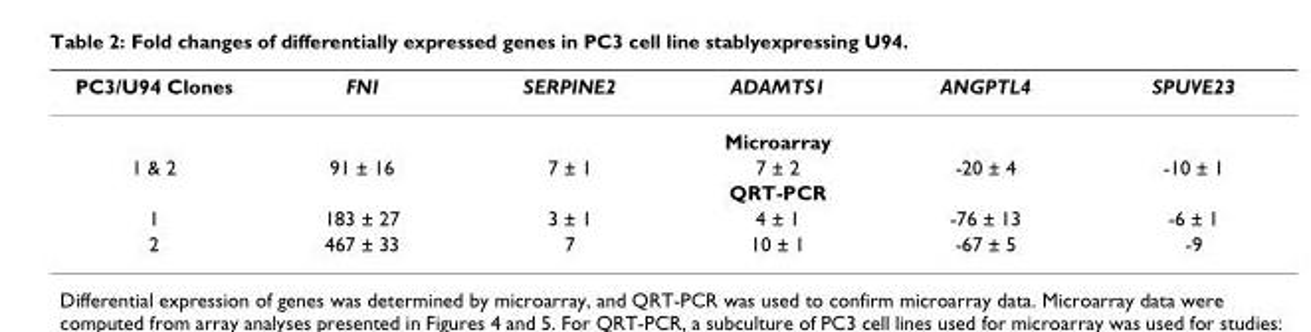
<table><thead><tr><td>PC3/U94 Clones</td><td>FNI</td><td>SERPINE2</td><td>ADAMTS1</td><td>ANGPTL4</td><td>SPUVE23</td></tr></thead><tbody><tr><td></td><td></td><td></td><td>Microarray</td><td></td><td></td></tr><tr><td rowspan="2">1 &amp; 2</td><td>91 ± 16</td><td>7 ± 1</td><td>7 ± 2</td><td>-20 ± 4</td><td>-10 ± 1</td></tr><tr><td></td><td></td><td>QRT-PCR</td><td></td><td></td></tr><tr><td>1</td><td>183 ± 27</td><td>3 ± 1</td><td>4 ± 1</td><td>-76 ± 13</td><td>-6 ± 1</td></tr><tr><td>2</td><td>467 ± 33</td><td>7</td><td>10 ± 1</td><td>-67 ± 5</td><td>-9</td></tr></tbody></table>